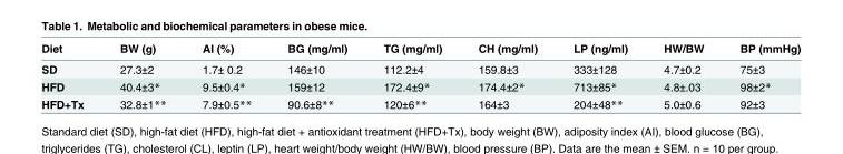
<table><thead><tr><td>Diet</td><td>BW (g)</td><td>AI (%)</td><td>BG (mg/ml)</td><td>TG (mg/ml)</td><td>CH (mg/ml)</td><td>LP (ng/ml)</td><td>HW/BW</td><td>BP (mmHg)</td></tr></thead><tbody><tr><td>SD</td><td>27.3±2</td><td>1.7± 0.2</td><td>146±10</td><td>112.2±4</td><td>159.8±3</td><td>333±128</td><td>4.7±0.2</td><td>75±3</td></tr><tr><td>HFD</td><td>40.4±3*</td><td>9.5±0.4*</td><td>159±12</td><td>172.4±9*</td><td>174.4±2*</td><td>713±85*</td><td>4.8±.03</td><td>98±2*</td></tr><tr><td>HFD+Tx</td><td>32.8±1**</td><td>7.9±0.5**</td><td>90.6±8**</td><td>120±6**</td><td>164±3</td><td>204±48**</td><td>5.0±0.6</td><td>92±3</td></tr></tbody></table>